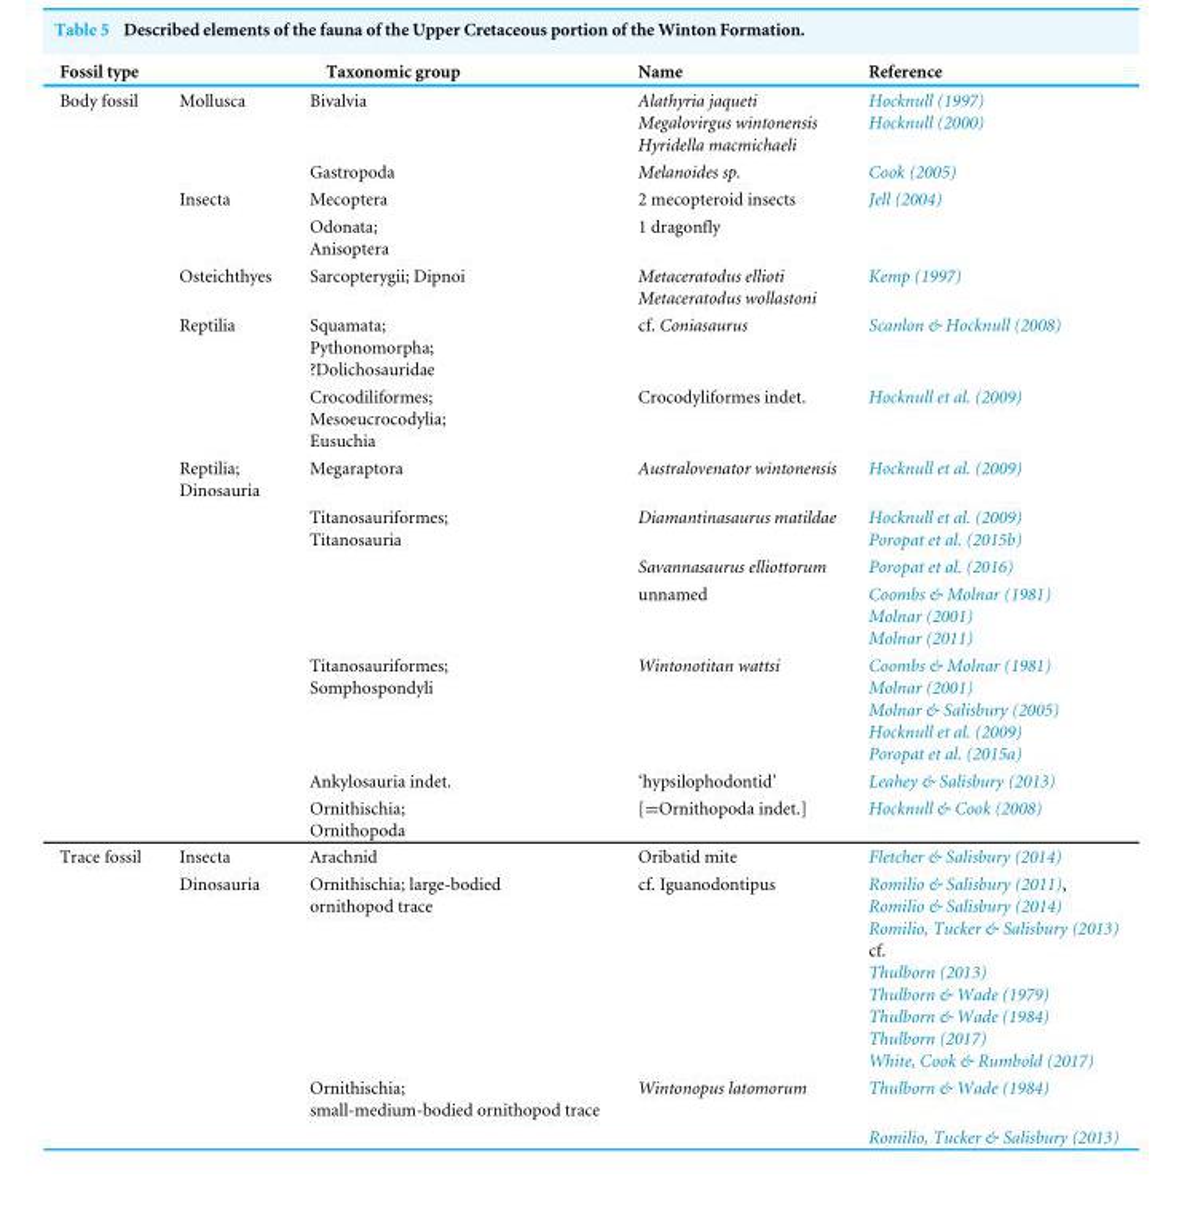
<table><thead><tr><td rowspan="2">Fossil type Body fossil</td><td colspan="2">Taxonomic group</td><td rowspan="2">Name Alathyria jaqueti Megalovirgus wintonensis Hyridella macmichaeli</td><td rowspan="2">Reference Hocknull (1997) Hocknull (2000)</td></tr><tr><td>Mollusca</td><td>Bivalvia</td></tr></thead><tbody><tr><td></td><td></td><td>Gastropoda</td><td>Melanoides sp.</td><td>Cook (2005)</td></tr><tr><td></td><td>Insecta</td><td>Mecoptera</td><td>2 mecopteroid insects</td><td>Jell (2004)</td></tr><tr><td></td><td></td><td>Odonata; Anisoptera</td><td>1 dragonfly</td><td></td></tr><tr><td></td><td>Osteichthyes</td><td>Sarcopterygii; Dipnoi</td><td>Metaceratodus ellioti Metaceratodus wollastoni</td><td>Kemp (1997)</td></tr><tr><td></td><td>Reptilia</td><td>Squamata; Pythonomorpha; ?Dolichosauridae</td><td>cf. Coniasaurus</td><td>Scanlon &amp; Hocknull (2008)</td></tr><tr><td></td><td></td><td>Crocodiliformes; Mesoeucrocodylia; Eusuchia</td><td>Crocodyliformes indet.</td><td>Hocknull et al. (2009)</td></tr><tr><td></td><td>Reptilia; Dinosauria</td><td>Megaraptora</td><td>Australovenator wintonensis</td><td>Hocknull et al. (2009)</td></tr><tr><td></td><td></td><td>Titanosauriformes; Titanosauria</td><td>Diamantinasaurus matildae</td><td>Hocknull et al. (2009) Poropat et al. (2015b)</td></tr><tr><td></td><td></td><td></td><td>Savannasaurus elliottorum</td><td>Poropat et al. (2016)</td></tr><tr><td></td><td></td><td></td><td>unnamed</td><td>Coombs &amp; Molnar (1981) Molnar (2001) Molnar (2011)</td></tr><tr><td></td><td></td><td>Titanosauriformes; Somphospondyli</td><td>Wintonotitan wattsi</td><td>Coombs &amp; Molnar (1981) Molnar (2001) Molnar &amp; Salisbury (2005) Hocknull et al. (2009) Poropat et al. (2015a)</td></tr><tr><td></td><td></td><td>Ankylosauria indet.</td><td>‘hypsilophodontid’</td><td>Leahey &amp; Salisbury (2013)</td></tr><tr><td></td><td></td><td>Ornithischia; Ornithopoda</td><td>[=Ornithopoda indet.]</td><td>Hocknull &amp; Cook (2008)</td></tr><tr><td rowspan="4">Trace fossil</td><td>Insecta</td><td>Arachnid</td><td>Oribatid mite</td><td>Fletcher &amp; Salisbury (2014)</td></tr><tr><td>Dinosauria</td><td>Ornithischia; large-bodied ornithopod trace</td><td>cf. Iguanodontipus</td><td>Romilio &amp; Salisbury (2011), Romilio &amp; Salisbury (2014) Romilio, Tucker &amp; Salisbury (2013) cf. Thulborn (2013) Thulborn &amp; Wade (1979) Thulborn &amp; Wade (1984) Thulborn (2017) White, Cook &amp; Rumbold (2017)</td></tr><tr><td></td><td>Ornithischia; small-medium-bodied ornithopod trace</td><td>Wintonopus latomorum</td><td>Thulborn &amp; Wade (1984)</td></tr><tr><td></td><td></td><td></td><td>Romilio, Tucker &amp; Salisbury (2013)</td></tr></tbody></table>